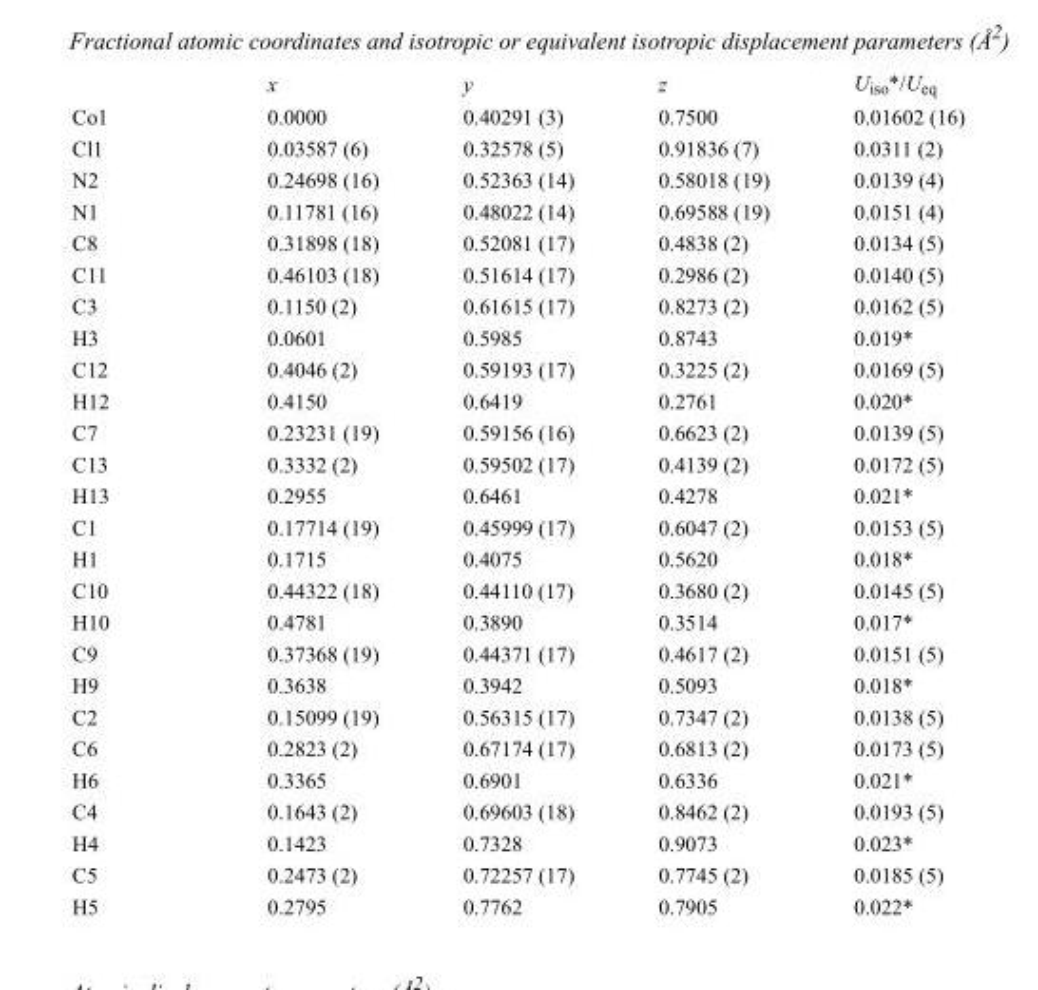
<table><thead><tr><td></td><td>x</td><td>y</td><td>z</td><td>U<sub>iso</sub>*/U<sub>eq</sub></td></tr></thead><tbody><tr><td>Co1</td><td>0.0000</td><td>0.40291 (3)</td><td>0.7500</td><td>0.01602 (16)</td></tr><tr><td>Cl1</td><td>0.03587 (6)</td><td>0.32578 (5)</td><td>0.91836 (7)</td><td>0.0311 (2)</td></tr><tr><td>N2</td><td>0.24698 (16)</td><td>0.52363 (14)</td><td>0.58018 (19)</td><td>0.0139 (4)</td></tr><tr><td>N1</td><td>0.11781 (16)</td><td>0.48022 (14)</td><td>0.69588 (19)</td><td>0.0151 (4)</td></tr><tr><td>C8</td><td>0.31898 (18)</td><td>0.52081 (17)</td><td>0.4838 (2)</td><td>0.0134 (5)</td></tr><tr><td>C11</td><td>0.46103 (18)</td><td>0.51614 (17)</td><td>0.2986 (2)</td><td>0.0140 (5)</td></tr><tr><td>C3</td><td>0.1150 (2)</td><td>0.61615 (17)</td><td>0.8273 (2)</td><td>0.0162 (5)</td></tr><tr><td>H3</td><td>0.0601</td><td>0.5985</td><td>0.8743</td><td>0.019*</td></tr><tr><td>C12</td><td>0.4046 (2)</td><td>0.59193 (17)</td><td>0.3225 (2)</td><td>0.0169 (5)</td></tr><tr><td>H12</td><td>0.4150</td><td>0.6419</td><td>0.2761</td><td>0.020*</td></tr><tr><td>C7</td><td>0.23231 (19)</td><td>0.59156 (16)</td><td>0.6623 (2)</td><td>0.0139 (5)</td></tr><tr><td>C13</td><td>0.3332 (2)</td><td>0.59502 (17)</td><td>0.4139 (2)</td><td>0.0172 (5)</td></tr><tr><td>H13</td><td>0.2955</td><td>0.6461</td><td>0.4278</td><td>0.021*</td></tr><tr><td>C1</td><td>0.17714 (19)</td><td>0.45999 (17)</td><td>0.6047 (2)</td><td>0.0153 (5)</td></tr><tr><td>H1</td><td>0.1715</td><td>0.4075</td><td>0.5620</td><td>0.018*</td></tr><tr><td>C10</td><td>0.44322 (18)</td><td>0.44110 (17)</td><td>0.3680 (2)</td><td>0.0145 (5)</td></tr><tr><td>H10</td><td>0.4781</td><td>0.3890</td><td>0.3514</td><td>0.017*</td></tr><tr><td>C9</td><td>0.37368 (19)</td><td>0.44371 (17)</td><td>0.4617 (2)</td><td>0.0151 (5)</td></tr><tr><td>H9</td><td>0.3638</td><td>0.3942</td><td>0.5093</td><td>0.018*</td></tr><tr><td>C2</td><td>0.15099 (19)</td><td>0.56315 (17)</td><td>0.7347 (2)</td><td>0.0138 (5)</td></tr><tr><td>C6</td><td>0.2823 (2)</td><td>0.67174 (17)</td><td>0.6813 (2)</td><td>0.0173 (5)</td></tr><tr><td>H6</td><td>0.3365</td><td>0.6901</td><td>0.6336</td><td>0.021*</td></tr><tr><td>C4</td><td>0.1643 (2)</td><td>0.69603 (18)</td><td>0.8462 (2)</td><td>0.0193 (5)</td></tr><tr><td>H4</td><td>0.1423</td><td>0.7328</td><td>0.9073</td><td>0.023*</td></tr><tr><td>C5</td><td>0.2473 (2)</td><td>0.72257 (17)</td><td>0.7745 (2)</td><td>0.0185 (5)</td></tr><tr><td>H5</td><td>0.2795</td><td>0.7762</td><td>0.7905</td><td>0.022*</td></tr></tbody></table>